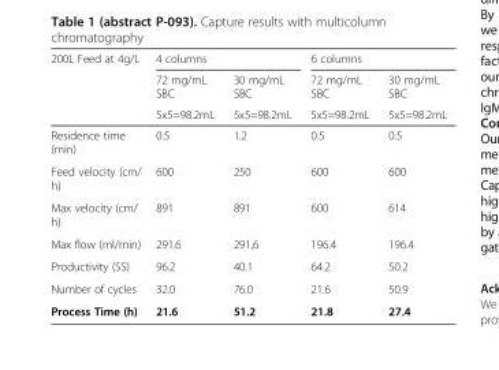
<table><thead><tr><td rowspan="3">200L Feed at 4g/L</td><td colspan="2">4 columns</td><td colspan="2">6 columns</td></tr><tr><td rowspan="2">72 mg/mL SBC 5x5=98.2mL</td><td rowspan="2">30 mg/mL SBC 5x5=98.2mL</td><td rowspan="2">72 mg/mL SBC 5x5=98.2mL</td><td rowspan="2">30 mg/mL SBC 5x5=98.2mL</td></tr><tr></tr></thead><tbody><tr><td>Residence time (min)</td><td>0.5</td><td>1.2</td><td>0.5</td><td>0.5</td></tr><tr><td>Feed velocity (cm/ h)</td><td>600</td><td>250</td><td>600</td><td>600</td></tr><tr><td>Max velocity (cm/ h)</td><td>891</td><td>891</td><td>600</td><td>614</td></tr><tr><td>Max flow (ml/min)</td><td>291.6</td><td>291,6</td><td>196.4</td><td>196.4</td></tr><tr><td>Productivity (SS)</td><td>96.2</td><td>40.1</td><td>64.2</td><td>50.2</td></tr><tr><td>Number of cycles</td><td>32.0</td><td>76.0</td><td>21.6</td><td>50.9</td></tr><tr><td>Process Time (h)</td><td>21.6</td><td>51.2</td><td>21.8</td><td>27.4</td></tr></tbody></table>